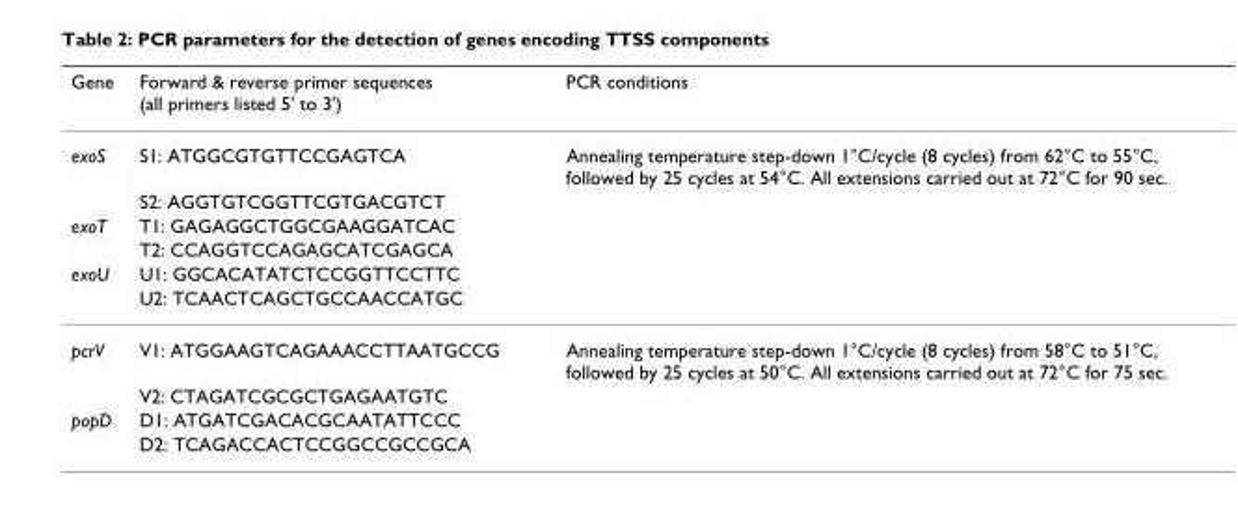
<table><thead><tr><td>Gene</td><td>Forward &amp; reverse primer sequences (all primers listed 5&#x27; to 3&#x27;)</td><td>PCR conditions</td></tr></thead><tbody><tr><td rowspan="2">exoS</td><td>S1: ATGGCGTGTTCCGAGTCA</td><td>Annealing temperature step-down 1°C/cycle (8 cycles) from 62°C to 55°C, followed by 25 cycles at 54°C. All extensions carried out at 72°C for 90 sec.</td></tr><tr><td>S2: AGGTGTCGGTTCGTGACGTCT</td><td></td></tr><tr><td rowspan="2">exoT</td><td>T1: GAGAGGCTGGCGAAGGATCAC</td><td></td></tr><tr><td>T2: CCAGGTCCAGAGCATCGAGCA</td><td></td></tr><tr><td rowspan="2">exoU</td><td>U1: GGCACATATCTCCGGTTCCTTC</td><td></td></tr><tr><td>U2: TCAACTCAGCTGCCAACCATGC</td><td></td></tr><tr><td rowspan="2">pcrV</td><td>V1: ATGGAAGTCAGAAACCTTAATGCCG</td><td>Annealing temperature step-down 1°C/cycle (8 cycles) from 58°C to 51°C, followed by 25 cycles at 50°C. All extensions carried out at 72°C for 75 sec.</td></tr><tr><td>V2: CTAGATCGCGCTGAGAATGTC</td><td></td></tr><tr><td rowspan="2">popD</td><td>D1: ATGATCGACACGCAATATTCCC</td><td></td></tr><tr><td>D2: TCAGACCACTCCGGCCGCCGCA</td><td></td></tr></tbody></table>